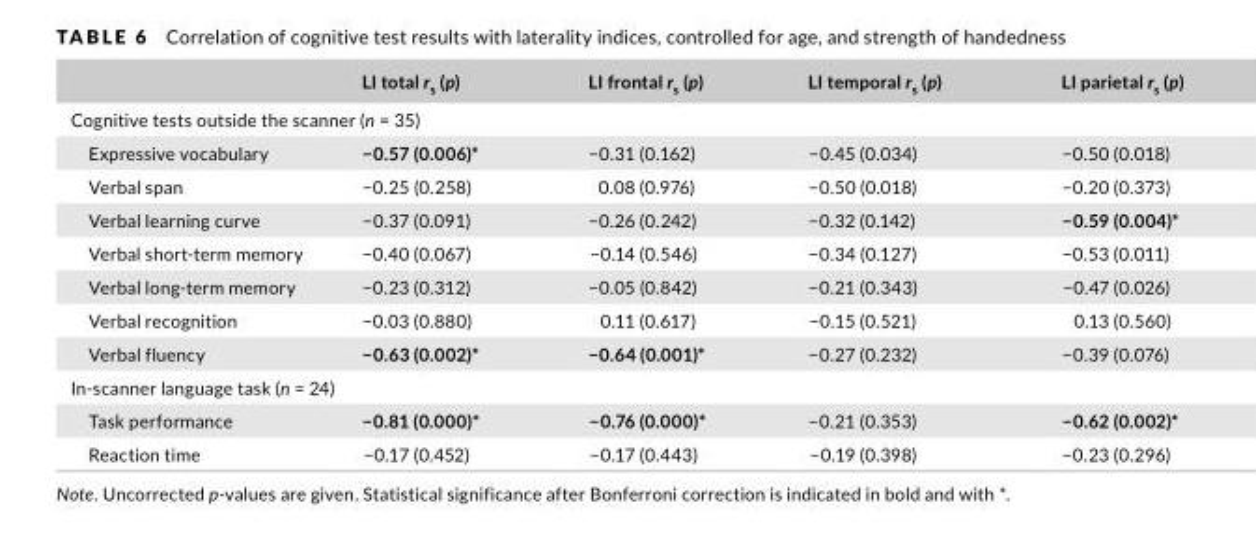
<table><thead><tr><td></td><td>LI total r<sub>s</sub> (p)</td><td>LI frontal r<sub>s</sub> (p)</td><td>LI temporal r<sub>s</sub> (p)</td><td>LI parietal r<sub>s</sub> (p)</td></tr></thead><tbody><tr><td colspan="5">Cognitive tests outside the scanner (n = 35)</td></tr><tr><td>Expressive vocabulary</td><td>−0.57 (0.006)*</td><td>−0.31 (0.162)</td><td>−0.45 (0.034)</td><td>−0.50 (0.018)</td></tr><tr><td>Verbal span</td><td>−0.25 (0.258)</td><td>0.08 (0.976)</td><td>−0.50 (0.018)</td><td>−0.20 (0.373)</td></tr><tr><td>Verbal learning curve</td><td>−0.37 (0.091)</td><td>−0.26 (0.242)</td><td>−0.32 (0.142)</td><td>−0.59 (0.004)*</td></tr><tr><td>Verbal short- term memory</td><td>−0.40 (0.067)</td><td>−0.14 (0.546)</td><td>−0.34 (0.127)</td><td>−0.53 (0.011)</td></tr><tr><td>Verbal long- term memory</td><td>−0.23 (0.312)</td><td>−0.05 (0.842)</td><td>−0.21 (0.343)</td><td>−0.47 (0.026)</td></tr><tr><td>Verbal recognition</td><td>−0.03 (0.880)</td><td>0.11 (0.617)</td><td>−0.15 (0.521)</td><td>0.13 (0.560)</td></tr><tr><td>Verbal fluency</td><td>−0.63 (0.002)*</td><td>−0.64 (0.001)*</td><td>−0.27 (0.232)</td><td>−0.39 (0.076)</td></tr><tr><td colspan="5">In- scanner language task (n = 24)</td></tr><tr><td>Task performance</td><td>−0.81 (0.000)*</td><td>−0.76 (0.000)*</td><td>−0.21 (0.353)</td><td>−0.62 (0.002)*</td></tr><tr><td>Reaction time</td><td>−0.17 (0.452)</td><td>−0.17 (0.443)</td><td>−0.19 (0.398)</td><td>−0.23 (0.296)</td></tr></tbody></table>